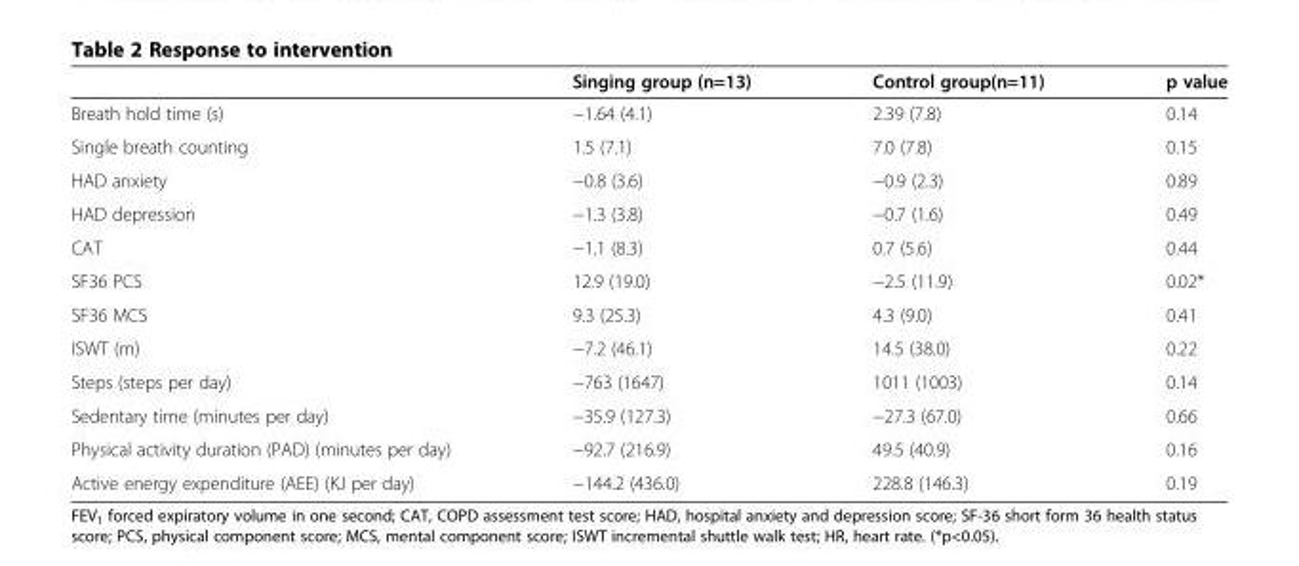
<table><thead><tr><td></td><td>Singing group (n=13)</td><td>Control group(n=11)</td><td>p value</td></tr></thead><tbody><tr><td>Breath hold time (s)</td><td>−1.64 (4.1)</td><td>2.39 (7.8)</td><td>0.14</td></tr><tr><td>Single breath counting</td><td>1.5 (7.1)</td><td>7.0 (7.8)</td><td>0.15</td></tr><tr><td>HAD anxiety</td><td>−0.8 (3.6)</td><td>−0.9 (2.3)</td><td>0.89</td></tr><tr><td>HAD depression</td><td>−1.3 (3.8)</td><td>−0.7 (1.6)</td><td>0.49</td></tr><tr><td>CAT</td><td>−1.1 (8.3)</td><td>0.7 (5.6)</td><td>0.44</td></tr><tr><td>SF36 PCS</td><td>12.9 (19.0)</td><td>−2.5 (11.9)</td><td>0.02*</td></tr><tr><td>SF36 MCS</td><td>9.3 (25.3)</td><td>4.3 (9.0)</td><td>0.41</td></tr><tr><td>ISWT (m)</td><td>−7.2 (46.1)</td><td>14.5 (38.0)</td><td>0.22</td></tr><tr><td>Steps (steps per day)</td><td>−763 (1647)</td><td>1011 (1003)</td><td>0.14</td></tr><tr><td>Sedentary time (minutes per day)</td><td>−35.9 (127.3)</td><td>−27.3 (67.0)</td><td>0.66</td></tr><tr><td>Physical activity duration (PAD) (minutes per day)</td><td>−92.7 (216.9)</td><td>49.5 (40.9)</td><td>0.16</td></tr><tr><td>Active energy expenditure (AEE) (KJ per day)</td><td>−144.2 (436.0)</td><td>228.8 (146.3)</td><td>0.19</td></tr></tbody></table>